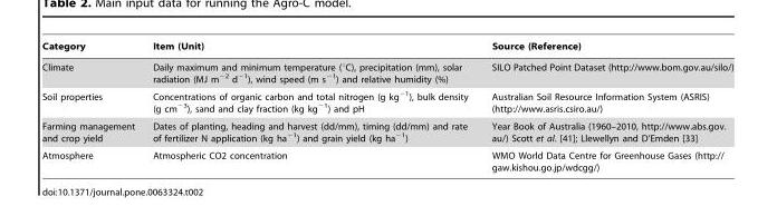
<table><thead><tr><td>Category</td><td>Item (Unit)</td><td>Source (Reference)</td></tr></thead><tbody><tr><td>Climate</td><td>Daily maximum and minimum temperature (°C), precipitation (mm), solar radiation (MJ m<sup>−2</sup> d<sup>−1</sup>), wind speed (m s<sup>−1</sup>) and relative humidity (%)</td><td>SILO Patched Point Dataset (http://www.bom.gov.au/silo/)</td></tr><tr><td>Soil properties</td><td>Concentrations of organic carbon and total nitrogen (g kg<sup>−1</sup>), bulk density (g cm<sup>−3</sup>), sand and clay fraction (kg kg<sup>−1</sup>) and pH</td><td>Australian Soil Resource Information System (ASRIS) (http://www.asris.csiro.au/)</td></tr><tr><td>Farming management and crop yield</td><td>Dates of planting, heading and harvest (dd/mm), timing (dd/mm) and rate of fertilizer N application (kg ha<sup>−1</sup>) and grain yield (kg ha<sup>−1</sup>)</td><td>Year Book of Australia (1960–2010, http://www.abs.gov. au/) Scott et al. [41]; Llewellyn and D’Emden [33]</td></tr><tr><td>Atmosphere</td><td>Atmospheric CO2 concentration</td><td>WMO World Data Centre for Greenhouse Gases (http:// gaw.kishou.go.jp/wdcgg/)</td></tr></tbody></table>